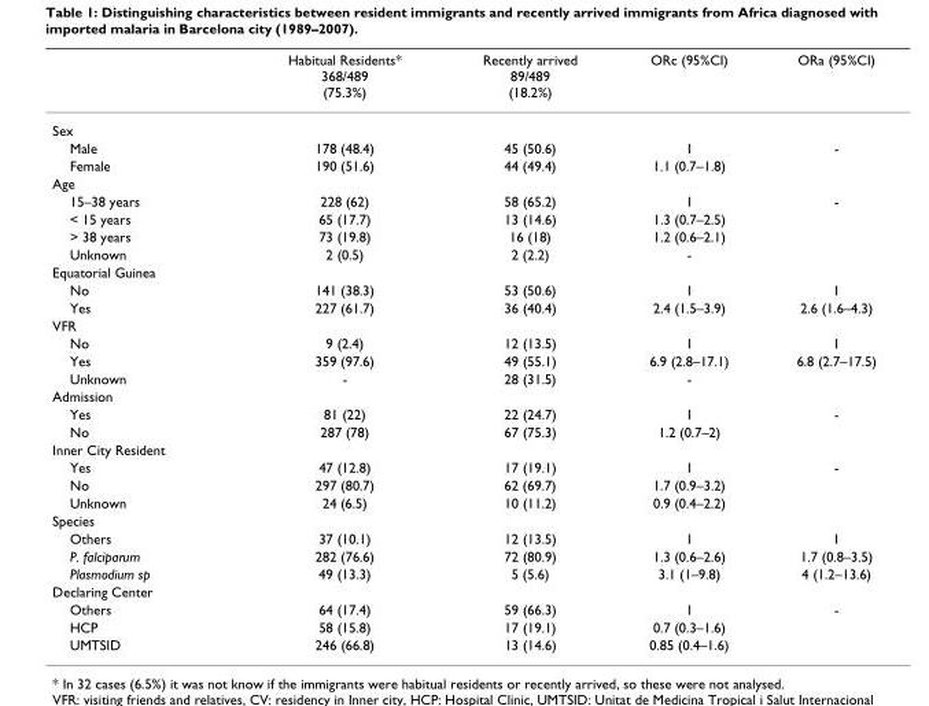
<table><thead><tr><td></td><td>Habitual Residents* 368/489 (75.3%)</td><td>Recently arrived 89/489 (18.2%)</td><td>ORc (95%CI)</td><td>ORa (95%CI)</td></tr></thead><tbody><tr><td colspan="5">Sex</td></tr><tr><td>Male</td><td>178 (48.4)</td><td>45 (50.6)</td><td>1</td><td>-</td></tr><tr><td>Female</td><td>190 (51.6)</td><td>44 (49.4)</td><td>1.1 (0.7–1.8)</td><td></td></tr><tr><td colspan="5">Age</td></tr><tr><td>15–38 years</td><td>228 (62)</td><td>58 (65.2)</td><td>1</td><td>-</td></tr><tr><td>&lt; 15 years</td><td>65 (17.7)</td><td>13 (14.6)</td><td>1.3 (0.7–2.5)</td><td></td></tr><tr><td>&gt; 38 years</td><td>73 (19.8)</td><td>16 (18)</td><td>1.2 (0.6–2.1)</td><td></td></tr><tr><td>Unknown</td><td>2 (0.5)</td><td>2 (2.2)</td><td>-</td><td></td></tr><tr><td colspan="5">Equatorial Guinea</td></tr><tr><td>No</td><td>141 (38.3)</td><td>53 (50.6)</td><td>1</td><td>1</td></tr><tr><td>Yes</td><td>227 (61.7)</td><td>36 (40.4)</td><td>2.4 (1.5–3.9)</td><td>2.6 (1.6–4.3)</td></tr><tr><td colspan="5">VFR</td></tr><tr><td>No</td><td>9 (2.4)</td><td>12 (13.5)</td><td>1</td><td>1</td></tr><tr><td>Yes</td><td>359 (97.6)</td><td>49 (55.1)</td><td>6.9 (2.8–17.1)</td><td>6.8 (2.7–17.5)</td></tr><tr><td>Unknown</td><td>-</td><td>28 (31.5)</td><td>-</td><td></td></tr><tr><td colspan="5">Admission</td></tr><tr><td>Yes</td><td>81 (22)</td><td>22 (24.7)</td><td>1</td><td>-</td></tr><tr><td>No</td><td>287 (78)</td><td>67 (75.3)</td><td>1.2 (0.7–2)</td><td></td></tr><tr><td colspan="5">Inner City Resident</td></tr><tr><td>Yes</td><td>47 (12.8)</td><td>17 (19.1)</td><td>1</td><td>-</td></tr><tr><td>No</td><td>297 (80.7)</td><td>62 (69.7)</td><td>1.7 (0.9–3.2)</td><td></td></tr><tr><td>Unknown</td><td>24 (6.5)</td><td>10 (11.2)</td><td>0.9 (0.4–2.2)</td><td></td></tr><tr><td colspan="5">Species</td></tr><tr><td>Others</td><td>37 (10.1)</td><td>12 (13.5)</td><td>1</td><td>1</td></tr><tr><td>P. falciparum</td><td>282 (76.6)</td><td>72 (80.9)</td><td>1.3 (0.6–2.6)</td><td>1.7 (0.8–3.5)</td></tr><tr><td>Plasmodium sp</td><td>49 (13.3)</td><td>5 (5.6)</td><td>3.1 (1–9.8)</td><td>4 (1.2–13.6)</td></tr><tr><td colspan="5">Declaring Center</td></tr><tr><td>Others</td><td>64 (17.4)</td><td>59 (66.3)</td><td>1</td><td>-</td></tr><tr><td>HCP</td><td>58 (15.8)</td><td>17 (19.1)</td><td>0.7 (0.3–1.6)</td><td></td></tr><tr><td>UMTSID</td><td>246 (66.8)</td><td>13 (14.6)</td><td>0.85 (0.4–1.6)</td><td></td></tr></tbody></table>